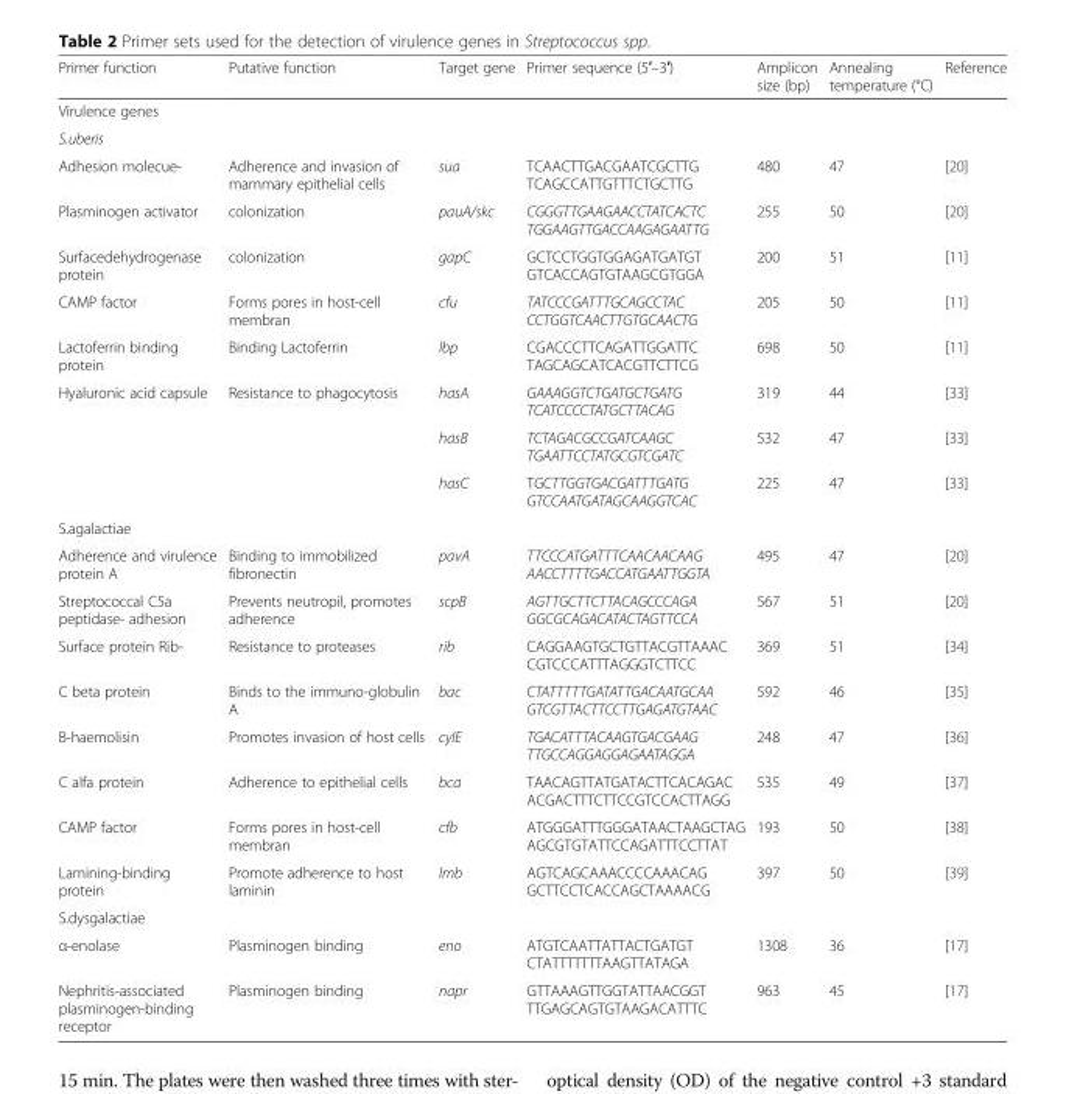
<table><thead><tr><td>Primer function</td><td>Putative function</td><td>Target gene</td><td>Primer sequence (5′–3′)</td><td>Amplicon size (bp)</td><td>Annealing temperature (°C)</td><td>Reference</td></tr></thead><tbody><tr><td colspan="7">Virulence genes</td></tr><tr><td colspan="7">S.uberis</td></tr><tr><td>Adhesion molecue-</td><td>Adherence and invasion of mammary epithelial cells</td><td>sua</td><td>TCAACTTGACGAATCGCTTG TCAGCCATTGTTTCTGCTTG</td><td>480</td><td>47</td><td>[20]</td></tr><tr><td>Plasminogen activator</td><td>colonization</td><td>pauA/skc</td><td>CGGGTTGAAGAACCTATCACTC TGGAAGTTGACCAAGAGAATTG</td><td>255</td><td>50</td><td>[20]</td></tr><tr><td>Surfacedehydrogenase protein</td><td>colonization</td><td>gapC</td><td>GCTCCTGGTGGAGATGATGT GTCACCAGTGTAAGCGTGGA</td><td>200</td><td>51</td><td>[11]</td></tr><tr><td>CAMP factor</td><td>Forms pores in host-cell membran</td><td>cfu</td><td>TATCCCGATTTGCAGCCTAC CCTGGTCAACTTGTGCAACTG</td><td>205</td><td>50</td><td>[11]</td></tr><tr><td>Lactoferrin binding protein</td><td>Binding Lactoferrin</td><td>lbp</td><td>CGACCCTTCAGATTGGATTC TAGCAGCATCACGTTCTTCG</td><td>698</td><td>50</td><td>[11]</td></tr><tr><td rowspan="3">Hyaluronic acid capsule</td><td rowspan="3">Resistance to phagocytosis</td><td>hasA</td><td>GAAAGGTCTGATGCTGATG TCATCCCCTATGCTTACAG</td><td>319</td><td>44</td><td>[33]</td></tr><tr><td>hasB</td><td>TCTAGACGCCGATCAAGC TGAATTCCTATGCGTCGATC</td><td>532</td><td>47</td><td>[33]</td></tr><tr><td>hasC</td><td>TGCTTGGTGACGATTTGATG GTCCAATGATAGCAAGGTCAC</td><td>225</td><td>47</td><td>[33]</td></tr><tr><td colspan="7">S.agalactiae</td></tr><tr><td>Adherence and virulence protein A</td><td>Binding to immobilized fibronectin</td><td>pavA</td><td>TTCCCATGATTTCAACAACAAG AACCTTTTGACCATGAATTGGTA</td><td>495</td><td>47</td><td>[20]</td></tr><tr><td>Streptococcal C5a peptidase- adhesion</td><td>Prevents neutropil, promotes adherence</td><td>scpB</td><td>AGTTGCTTCTTACAGCCCAGA GGCGCAGACATACTAGTTCCA</td><td>567</td><td>51</td><td>[20]</td></tr><tr><td>Surface protein Rib-</td><td>Resistance to proteases</td><td>rib</td><td>CAGGAAGTGCTGTTACGTTAAAC CGTCCCATTTAGGGTCTTCC</td><td>369</td><td>51</td><td>[34]</td></tr><tr><td>C beta protein</td><td>Binds to the immuno-globulin A</td><td>bac</td><td>CTATTTTTGATATTGACAATGCAA GTCGTTACTTCCTTGAGATGTAAC</td><td>592</td><td>46</td><td>[35]</td></tr><tr><td>Β-haemolisin</td><td>Promotes invasion of host cells</td><td>cylE</td><td>TGACATTTACAAGTGACGAAG TTGCCAGGAGGAGAATAGGA</td><td>248</td><td>47</td><td>[36]</td></tr><tr><td>C alfa protein</td><td>Adherence to epithelial cells</td><td>bca</td><td>TAACAGTTATGATACTTCACAGAC ACGACTTTCTTCCGTCCACTTAGG</td><td>535</td><td>49</td><td>[37]</td></tr><tr><td>CAMP factor</td><td>Forms pores in host-cell membran</td><td>cfb</td><td>ATGGGATTTGGGATAACTAAGCTAG AGCGTGTATTCCAGATTTCCTTAT</td><td>193</td><td>50</td><td>[38]</td></tr><tr><td>Lamining-binding protein</td><td>Promote adherence to host laminin</td><td>lmb</td><td>AGTCAGCAAACCCCAAACAG GCTTCCTCACCAGCTAAAACG</td><td>397</td><td>50</td><td>[39]</td></tr><tr><td colspan="7">S.dysgalactiae</td></tr><tr><td>α-enolase</td><td>Plasminogen binding</td><td>eno</td><td>ATGTCAATTATTACTGATGT CTATTTTTTTAAGTTATAGA</td><td>1308</td><td>36</td><td>[17]</td></tr><tr><td>Nephritis-associated plasminogen-binding receptor</td><td>Plasminogen binding</td><td>napr</td><td>GTTAAAGTTGGTATTAACGGT TTGAGCAGTGTAAGACATTTC</td><td>963</td><td>45</td><td>[17]</td></tr></tbody></table>